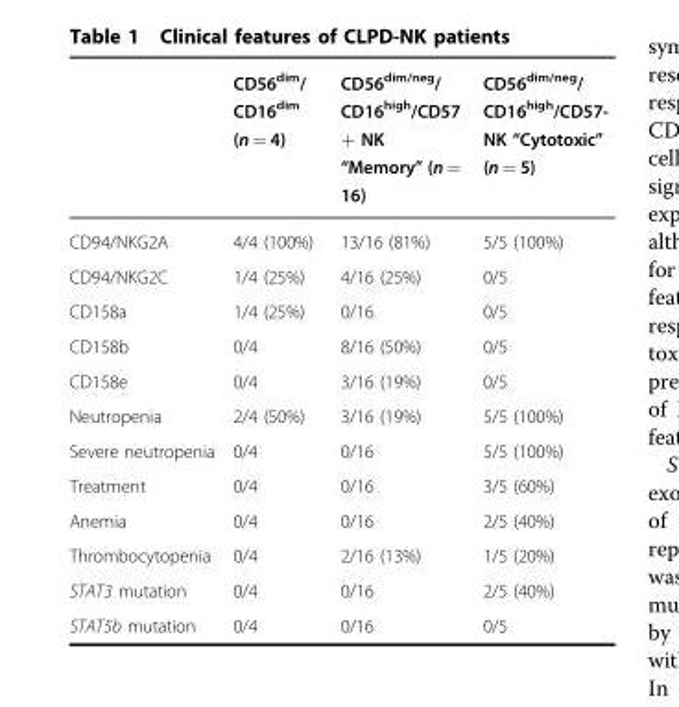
<table><thead><tr><td></td><td>CD56<sup>dim</sup>/ CD16<sup>dim</sup> (n = 4)</td><td>CD56<sup>dim/neg</sup>/ CD16<sup>high</sup>/CD57 + NK “Memory” (n = 16)</td><td>CD56<sup>dim/neg</sup>/ CD16<sup>high</sup>/CD57- NK “Cytotoxic” (n = 5)</td></tr></thead><tbody><tr><td>CD94/NKG2A</td><td>4/4 (100%)</td><td>13/16 (81%)</td><td>5/5 (100%)</td></tr><tr><td>CD94/NKG2C</td><td>1/4 (25%)</td><td>4/16 (25%)</td><td>0/5</td></tr><tr><td>CD158a</td><td>1/4 (25%)</td><td>0/16</td><td>0/5</td></tr><tr><td>CD158b</td><td>0/4</td><td>8/16 (50%)</td><td>0/5</td></tr><tr><td>CD158e</td><td>0/4</td><td>3/16 (19%)</td><td>0/5</td></tr><tr><td>Neutropenia</td><td>2/4 (50%)</td><td>3/16 (19%)</td><td>5/5 (100%)</td></tr><tr><td>Severe neutropenia</td><td>0/4</td><td>0/16</td><td>5/5 (100%)</td></tr><tr><td>Treatment</td><td>0/4</td><td>0/16</td><td>3/5 (60%)</td></tr><tr><td>Anemia</td><td>0/4</td><td>0/16</td><td>2/5 (40%)</td></tr><tr><td>Thrombocytopenia</td><td>0/4</td><td>2/16 (13%)</td><td>1/5 (20%)</td></tr><tr><td>STAT3 mutation</td><td>0/4</td><td>0/16</td><td>2/5 (40%)</td></tr><tr><td>STAT5b mutation</td><td>0/4</td><td>0/16</td><td>0/5</td></tr></tbody></table>